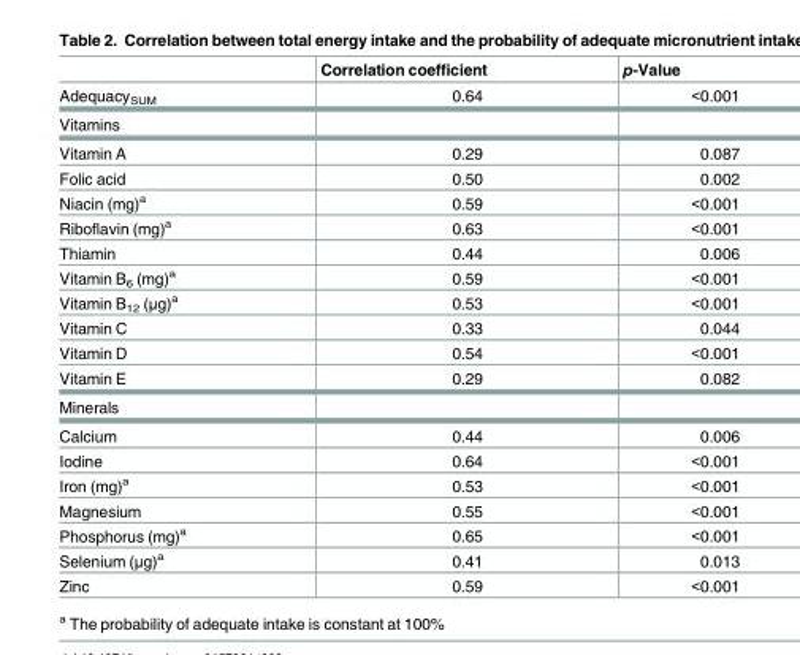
<table><thead><tr><td></td><td>Correlation coefficient</td><td>p-Value</td></tr></thead><tbody><tr><td>Adequacy<sub>SUM</sub></td><td>0.64</td><td>&lt;0.001</td></tr><tr><td colspan="3">Vitamins</td></tr><tr><td>Vitamin A</td><td>0.29</td><td>0.087</td></tr><tr><td>Folic acid</td><td>0.50</td><td>0.002</td></tr><tr><td>Niacin (mg)<sup>a</sup></td><td>0.59</td><td>&lt;0.001</td></tr><tr><td>Riboflavin (mg)<sup>a</sup></td><td>0.63</td><td>&lt;0.001</td></tr><tr><td>Thiamin</td><td>0.44</td><td>0.006</td></tr><tr><td>Vitamin B<sub>6</sub> (mg)<sup>a</sup></td><td>0.59</td><td>&lt;0.001</td></tr><tr><td>Vitamin B<sub>12</sub> (μg)<sup>a</sup></td><td>0.53</td><td>&lt;0.001</td></tr><tr><td>Vitamin C</td><td>0.33</td><td>0.044</td></tr><tr><td>Vitamin D</td><td>0.54</td><td>&lt;0.001</td></tr><tr><td>Vitamin E</td><td>0.29</td><td>0.082</td></tr><tr><td colspan="3">Minerals</td></tr><tr><td>Calcium</td><td>0.44</td><td>0.006</td></tr><tr><td>Iodine</td><td>0.64</td><td>&lt;0.001</td></tr><tr><td>Iron (mg)<sup>a</sup></td><td>0.53</td><td>&lt;0.001</td></tr><tr><td>Magnesium</td><td>0.55</td><td>&lt;0.001</td></tr><tr><td>Phosphorus (mg)<sup>a</sup></td><td>0.65</td><td>&lt;0.001</td></tr><tr><td>Selenium (μg)<sup>a</sup></td><td>0.41</td><td>0.013</td></tr><tr><td>Zinc</td><td>0.59</td><td>&lt;0.001</td></tr></tbody></table>